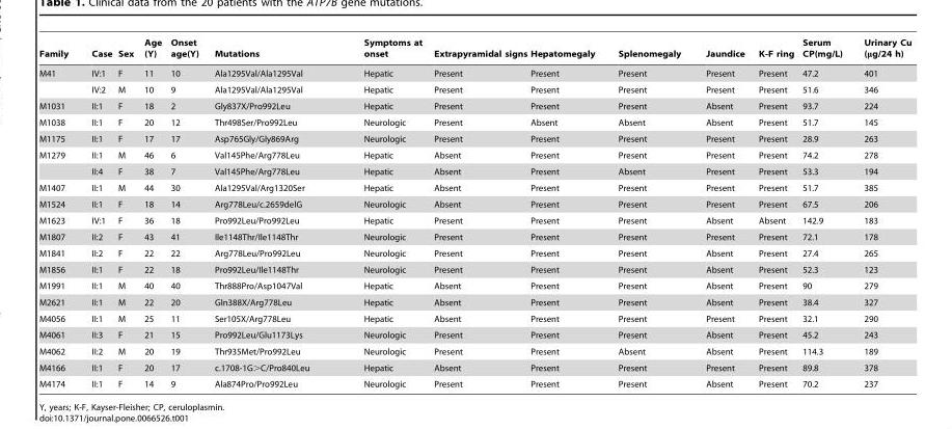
<table><thead><tr><td>Family</td><td>Case</td><td>Sex</td><td>Age (Y)</td><td>Onset age(Y)</td><td>Mutations</td><td>Symptoms at onset</td><td>Extrapyramidal signs</td><td>Hepatomegaly</td><td>Splenomegaly</td><td>Jaundice</td><td>K-F ring</td><td>Serum CP(mg/L)</td><td>Urinary Cu (μg/24 h)</td></tr></thead><tbody><tr><td rowspan="2">M41</td><td>IV:1</td><td>F</td><td>11</td><td>10</td><td>Ala1295Val/Ala1295Val</td><td>Hepatic</td><td>Present</td><td>Present</td><td>Present</td><td>Present</td><td>Present</td><td>47.2</td><td>401</td></tr><tr><td>IV:2</td><td>M</td><td>10</td><td>9</td><td>Ala1295Val/Ala1295Val</td><td>Hepatic</td><td>Present</td><td>Present</td><td>Present</td><td>Present</td><td>Present</td><td>51.6</td><td>346</td></tr><tr><td>M1031</td><td>II:1</td><td>F</td><td>18</td><td>2</td><td>Gly837X/Pro992Leu</td><td>Hepatic</td><td>Present</td><td>Present</td><td>Present</td><td>Absent</td><td>Present</td><td>93.7</td><td>224</td></tr><tr><td>M1038</td><td>II:1</td><td>F</td><td>20</td><td>12</td><td>Thr498Ser/Pro992Leu</td><td>Neurologic</td><td>Present</td><td>Absent</td><td>Absent</td><td>Absent</td><td>Present</td><td>51.7</td><td>145</td></tr><tr><td>M1175</td><td>II:1</td><td>F</td><td>17</td><td>17</td><td>Asp765Gly/Gly869Arg</td><td>Neurologic</td><td>Present</td><td>Present</td><td>Present</td><td>Present</td><td>Present</td><td>28.9</td><td>263</td></tr><tr><td rowspan="2">M1279</td><td>II:1</td><td>M</td><td>46</td><td>6</td><td>Val145Phe/Arg778Leu</td><td>Hepatic</td><td>Absent</td><td>Present</td><td>Present</td><td>Present</td><td>Present</td><td>74.2</td><td>278</td></tr><tr><td>II:4</td><td>F</td><td>38</td><td>7</td><td>Val145Phe/Arg778Leu</td><td>Hepatic</td><td>Absent</td><td>Present</td><td>Absent</td><td>Present</td><td>Present</td><td>53.3</td><td>194</td></tr><tr><td>M1407</td><td>II:1</td><td>M</td><td>44</td><td>30</td><td>Ala1295Val/Arg1320Ser</td><td>Hepatic</td><td>Absent</td><td>Present</td><td>Present</td><td>Present</td><td>Present</td><td>51.7</td><td>385</td></tr><tr><td>M1524</td><td>II:1</td><td>F</td><td>18</td><td>14</td><td>Arg778Leu/c.2659delG</td><td>Neurologic</td><td>Absent</td><td>Present</td><td>Present</td><td>Present</td><td>Present</td><td>67.5</td><td>206</td></tr><tr><td>M1623</td><td>IV:1</td><td>F</td><td>36</td><td>18</td><td>Pro992Leu/Pro992Leu</td><td>Hepatic</td><td>Present</td><td>Present</td><td>Present</td><td>Absent</td><td>Absent</td><td>142.9</td><td>183</td></tr><tr><td>M1807</td><td>II:2</td><td>F</td><td>43</td><td>41</td><td>Ile1148Thr/Ile1148Thr</td><td>Neurologic</td><td>Present</td><td>Present</td><td>Present</td><td>Present</td><td>Present</td><td>72.1</td><td>178</td></tr><tr><td>M1841</td><td>II:2</td><td>F</td><td>22</td><td>22</td><td>Arg778Leu/Pro992Leu</td><td>Neurologic</td><td>Present</td><td>Present</td><td>Present</td><td>Absent</td><td>Present</td><td>27.4</td><td>265</td></tr><tr><td>M1856</td><td>II:1</td><td>F</td><td>22</td><td>18</td><td>Pro992Leu/Ile1148Thr</td><td>Neurologic</td><td>Present</td><td>Present</td><td>Present</td><td>Absent</td><td>Present</td><td>52.3</td><td>123</td></tr><tr><td>M1991</td><td>II:1</td><td>M</td><td>40</td><td>40</td><td>Thr888Pro/Asp1047Val</td><td>Hepatic</td><td>Absent</td><td>Present</td><td>Present</td><td>Absent</td><td>Present</td><td>90</td><td>279</td></tr><tr><td>M2621</td><td>II:1</td><td>M</td><td>22</td><td>20</td><td>Gln388X/Arg778Leu</td><td>Hepatic</td><td>Absent</td><td>Present</td><td>Present</td><td>Absent</td><td>Present</td><td>38.4</td><td>327</td></tr><tr><td>M4056</td><td>II:1</td><td>M</td><td>25</td><td>11</td><td>Ser105X/Arg778Leu</td><td>Hepatic</td><td>Absent</td><td>Present</td><td>Present</td><td>Present</td><td>Present</td><td>32.1</td><td>290</td></tr><tr><td>M4061</td><td>II:3</td><td>F</td><td>21</td><td>15</td><td>Pro992Leu/Glu1173Lys</td><td>Neurologic</td><td>Present</td><td>Present</td><td>Present</td><td>Absent</td><td>Present</td><td>45.2</td><td>243</td></tr><tr><td>M4062</td><td>II:2</td><td>M</td><td>20</td><td>19</td><td>Thr935Met/Pro992Leu</td><td>Neurologic</td><td>Present</td><td>Present</td><td>Absent</td><td>Absent</td><td>Present</td><td>114.3</td><td>189</td></tr><tr><td>M4166</td><td>II:1</td><td>F</td><td>20</td><td>17</td><td>c.1708-1G&gt;C/Pro840Leu</td><td>Hepatic</td><td>Absent</td><td>Present</td><td>Present</td><td>Present</td><td>Present</td><td>89.8</td><td>378</td></tr><tr><td>M4174</td><td>II:1</td><td>F</td><td>14</td><td>9</td><td>Ala874Pro/Pro992Leu</td><td>Neurologic</td><td>Present</td><td>Present</td><td>Present</td><td>Absent</td><td>Present</td><td>70.2</td><td>237</td></tr></tbody></table>